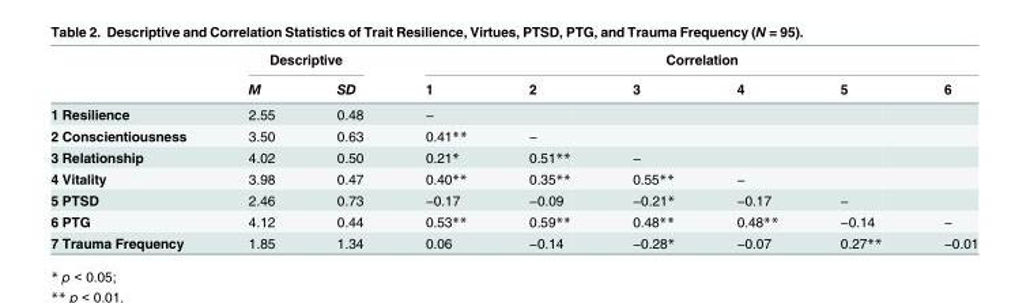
<table><thead><tr><td rowspan="2"></td><td colspan="2">Descriptive</td><td colspan="6">Correlation</td></tr><tr><td>M</td><td>SD</td><td>1</td><td>2</td><td>3</td><td>4</td><td>5</td><td>6</td></tr></thead><tbody><tr><td>1 Resilience</td><td>2.55</td><td>0.48</td><td>−</td><td></td><td></td><td></td><td></td><td></td></tr><tr><td>2 Conscientiousness</td><td>3.50</td><td>0.63</td><td>0.41**</td><td>−</td><td></td><td></td><td></td><td></td></tr><tr><td>3 Relationship</td><td>4.02</td><td>0.50</td><td>0.21*</td><td>0.51**</td><td>−</td><td></td><td></td><td></td></tr><tr><td>4 Vitality</td><td>3.98</td><td>0.47</td><td>0.40**</td><td>0.35**</td><td>0.55**</td><td>−</td><td></td><td></td></tr><tr><td>5 PTSD</td><td>2.46</td><td>0.73</td><td>−0.17</td><td>−0.09</td><td>−0.21*</td><td>−0.17</td><td>−</td><td></td></tr><tr><td>6 PTG</td><td>4.12</td><td>0.44</td><td>0.53**</td><td>0.59**</td><td>0.48**</td><td>0.48**</td><td>−0.14</td><td>−</td></tr><tr><td>7 Trauma Frequency</td><td>1.85</td><td>1.34</td><td>0.06</td><td>−0.14</td><td>−0.28*</td><td>−0.07</td><td>0.27**</td><td>−0.01</td></tr></tbody></table>